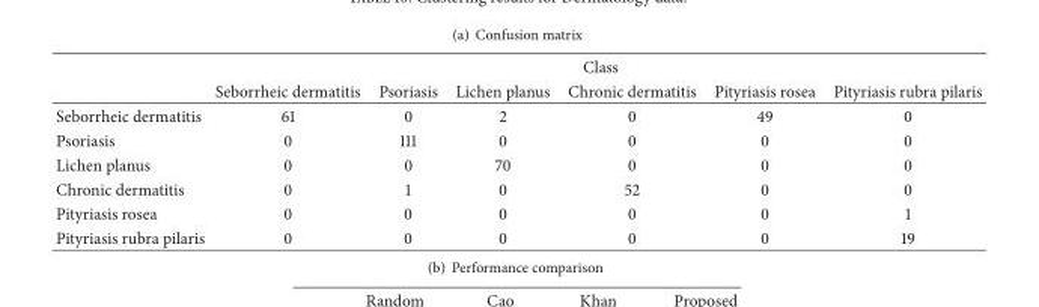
<table><thead><tr><td rowspan="2"></td><td colspan="6">Class</td></tr><tr><td>Seborrheic dermatitis</td><td>Psoriasis</td><td>Lichen planus</td><td>Chronic dermatitis</td><td>Pityriasis rosea</td><td>Pityriasis rubra pilaris</td></tr></thead><tbody><tr><td>Seborrheic dermatitis</td><td>61</td><td>0</td><td>2</td><td>0</td><td>49</td><td>0</td></tr><tr><td>Psoriasis</td><td>0</td><td>111</td><td>0</td><td>0</td><td>0</td><td>0</td></tr><tr><td>Lichen planus</td><td>0</td><td>0</td><td>70</td><td>0</td><td>0</td><td>0</td></tr><tr><td>Chronic dermatitis</td><td>0</td><td>1</td><td>0</td><td>52</td><td>0</td><td>0</td></tr><tr><td>Pityriasis rosea</td><td>0</td><td>0</td><td>0</td><td>0</td><td>0</td><td>1</td></tr><tr><td>Pityriasis rubra pilaris</td><td>0</td><td>0</td><td>0</td><td>0</td><td>0</td><td>19</td></tr></tbody></table>